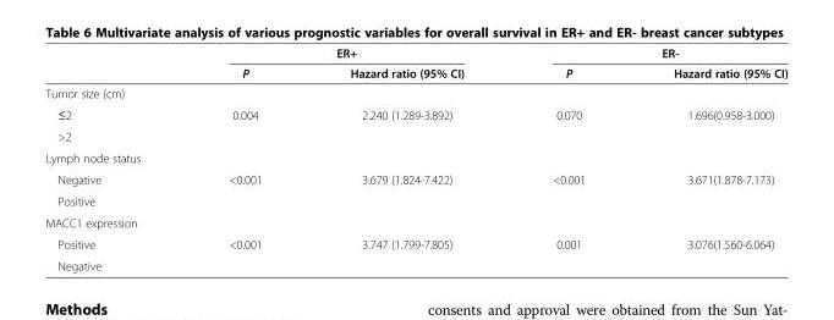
<table><thead><tr><td rowspan="2"></td><td colspan="2">ER+</td><td colspan="2">ER-</td></tr><tr><td>P</td><td>Hazard ratio (95% CI)</td><td>P</td><td>Hazard ratio (95% CI)</td></tr></thead><tbody><tr><td colspan="5">Tumor size (cm)</td></tr><tr><td>≤2</td><td rowspan="2">0.004</td><td rowspan="2">2.240 (1.289-3.892)</td><td rowspan="2">0.070</td><td rowspan="2">1.696(0.958-3.000)</td></tr><tr><td>&gt;2</td></tr><tr><td colspan="5">Lymph node status</td></tr><tr><td>Negative</td><td rowspan="2">&lt;0.001</td><td rowspan="2">3.679 (1.824-7.422)</td><td rowspan="2">&lt;0.001</td><td rowspan="2">3.671(1.878-7.173)</td></tr><tr><td>Positive</td></tr><tr><td colspan="5">MACC1 expression</td></tr><tr><td>Positive</td><td rowspan="2">&lt;0.001</td><td rowspan="2">3.747 (1.799-7.805)</td><td rowspan="2">0.001</td><td rowspan="2">3.076(1.560-6.064)</td></tr><tr><td>Negative</td></tr></tbody></table>